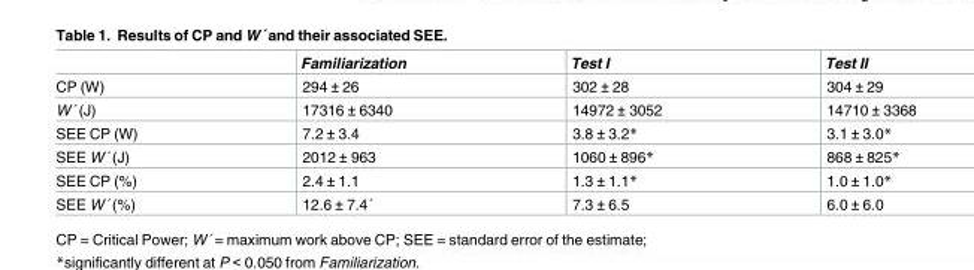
<table><thead><tr><td></td><td>Familiarization</td><td>Test I</td><td>Test II</td></tr></thead><tbody><tr><td>CP (W)</td><td>294 ± 26</td><td>302 ± 28</td><td>304 ± 29</td></tr><tr><td>W´ (J)</td><td>17316 ± 6340</td><td>14972 ± 3052</td><td>14710 ± 3368</td></tr><tr><td>SEE CP (W)</td><td>7.2 ± 3.4</td><td>3.8 ± 3.2*</td><td>3.1 ± 3.0*</td></tr><tr><td>SEE W´ (J)</td><td>2012 ± 963</td><td>1060 ± 896*</td><td>868 ± 825*</td></tr><tr><td>SEE CP (%)</td><td>2.4 ± 1.1</td><td>1.3 ± 1.1*</td><td>1.0 ± 1.0*</td></tr><tr><td>SEE W´ (%)</td><td>12.6 ± 7.4´</td><td>7.3 ± 6.5</td><td>6.0 ± 6.0</td></tr></tbody></table>